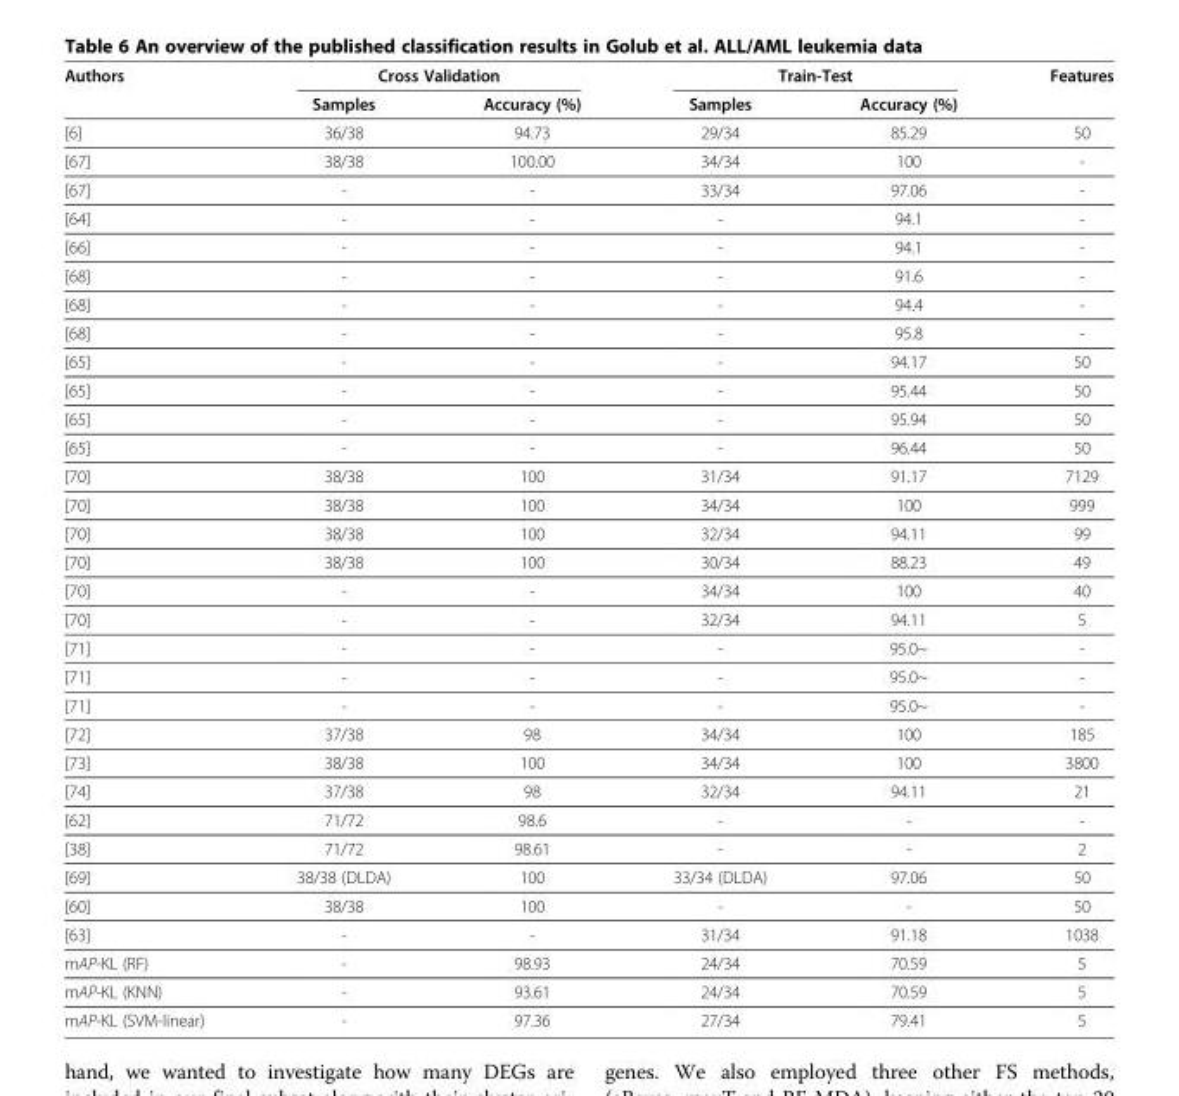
<table><thead><tr><td rowspan="2">Authors</td><td colspan="2">Cross Validation</td><td colspan="2">Train-Test</td><td rowspan="2">Features</td></tr><tr><td>Samples</td><td>Accuracy (%)</td><td>Samples</td><td>Accuracy (%)</td></tr></thead><tbody><tr><td>[6]</td><td>36/38</td><td>94.73</td><td>29/34</td><td>85.29</td><td>50</td></tr><tr><td>[67]</td><td>38/38</td><td>100.00</td><td>34/34</td><td>100</td><td>-</td></tr><tr><td>[67]</td><td>-</td><td>-</td><td>33/34</td><td>97.06</td><td>-</td></tr><tr><td>[64]</td><td>-</td><td>-</td><td>-</td><td>94.1</td><td>-</td></tr><tr><td>[66]</td><td>-</td><td>-</td><td>-</td><td>94.1</td><td>-</td></tr><tr><td>[68]</td><td>-</td><td>-</td><td>-</td><td>91.6</td><td>-</td></tr><tr><td>[68]</td><td>-</td><td>-</td><td>-</td><td>94.4</td><td>-</td></tr><tr><td>[68]</td><td>-</td><td>-</td><td>-</td><td>95.8</td><td>-</td></tr><tr><td>[65]</td><td>-</td><td>-</td><td>-</td><td>94.17</td><td>50</td></tr><tr><td>[65]</td><td>-</td><td>-</td><td>-</td><td>95.44</td><td>50</td></tr><tr><td>[65]</td><td>-</td><td>-</td><td>-</td><td>95.94</td><td>50</td></tr><tr><td>[65]</td><td>-</td><td>-</td><td>-</td><td>96.44</td><td>50</td></tr><tr><td>[70]</td><td>38/38</td><td>100</td><td>31/34</td><td>91.17</td><td>7129</td></tr><tr><td>[70]</td><td>38/38</td><td>100</td><td>34/34</td><td>100</td><td>999</td></tr><tr><td>[70]</td><td>38/38</td><td>100</td><td>32/34</td><td>94.11</td><td>99</td></tr><tr><td>[70]</td><td>38/38</td><td>100</td><td>30/34</td><td>88.23</td><td>49</td></tr><tr><td>[70]</td><td>-</td><td>-</td><td>34/34</td><td>100</td><td>40</td></tr><tr><td>[70]</td><td>-</td><td>-</td><td>32/34</td><td>94.11</td><td>5</td></tr><tr><td>[71]</td><td>-</td><td>-</td><td>-</td><td>95.0~</td><td>-</td></tr><tr><td>[71]</td><td>-</td><td>-</td><td>-</td><td>95.0~</td><td>-</td></tr><tr><td>[71]</td><td>-</td><td>-</td><td>-</td><td>95.0~</td><td>-</td></tr><tr><td>[72]</td><td>37/38</td><td>98</td><td>34/34</td><td>100</td><td>185</td></tr><tr><td>[73]</td><td>38/38</td><td>100</td><td>34/34</td><td>100</td><td>3800</td></tr><tr><td>[74]</td><td>37/38</td><td>98</td><td>32/34</td><td>94.11</td><td>21</td></tr><tr><td>[62]</td><td>71/72</td><td>98.6</td><td>-</td><td>-</td><td>-</td></tr><tr><td>[38]</td><td>71/72</td><td>98.61</td><td>-</td><td>-</td><td>2</td></tr><tr><td>[69]</td><td>38/38 (DLDA)</td><td>100</td><td>33/34 (DLDA)</td><td>97.06</td><td>50</td></tr><tr><td>[60]</td><td>38/38</td><td>100</td><td>-</td><td>-</td><td>50</td></tr><tr><td>[63]</td><td>-</td><td>-</td><td>31/34</td><td>91.18</td><td>1038</td></tr><tr><td>mAP-KL (RF)</td><td>-</td><td>98.93</td><td>24/34</td><td>70.59</td><td>5</td></tr><tr><td>mAP-KL (KNN)</td><td>-</td><td>93.61</td><td>24/34</td><td>70.59</td><td>5</td></tr><tr><td>mAP-KL (SVM-linear)</td><td>-</td><td>97.36</td><td>27/34</td><td>79.41</td><td>5</td></tr></tbody></table>